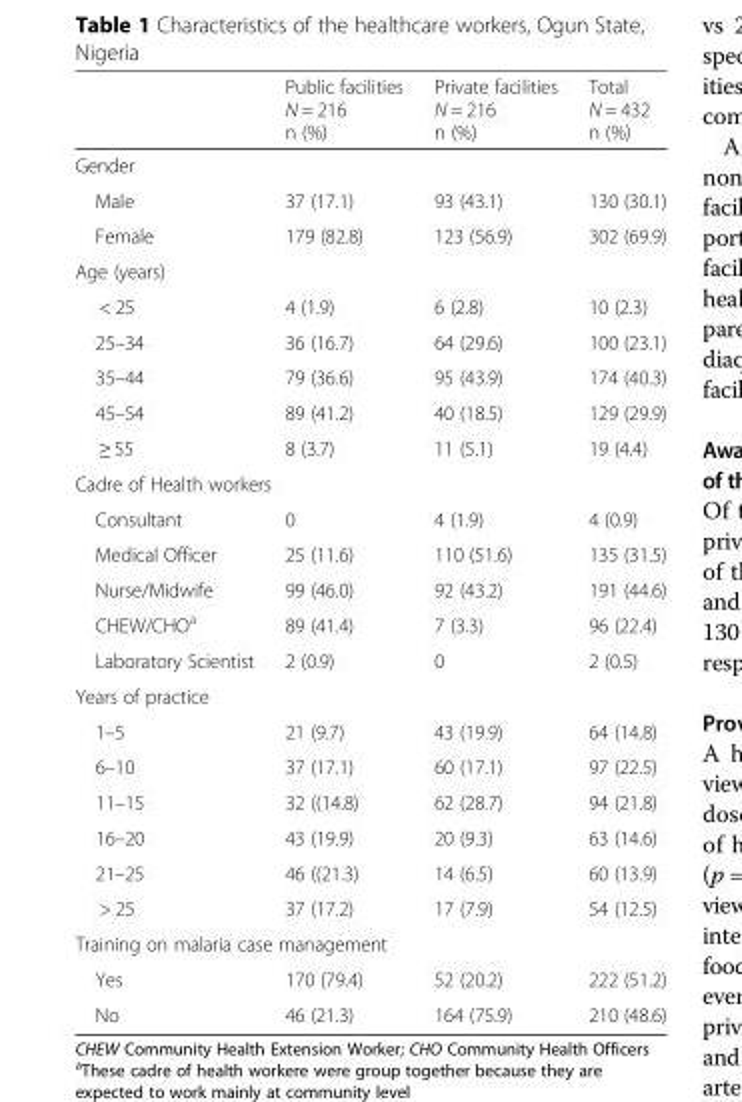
<table><thead><tr><td></td><td>Public facilities N = 216 n (%)</td><td>Private facilities N = 216 n (%)</td><td>Total N = 432 n (%)</td></tr></thead><tbody><tr><td colspan="4">Gender</td></tr><tr><td>Male</td><td>37 (17.1)</td><td>93 (43.1)</td><td>130 (30.1)</td></tr><tr><td>Female</td><td>179 (82.8)</td><td>123 (56.9)</td><td>302 (69.9)</td></tr><tr><td colspan="4">Age (years)</td></tr><tr><td>&lt; 25</td><td>4 (1.9)</td><td>6 (2.8)</td><td>10 (2.3)</td></tr><tr><td>25–34</td><td>36 (16.7)</td><td>64 (29.6)</td><td>100 (23.1)</td></tr><tr><td>35–44</td><td>79 (36.6)</td><td>95 (43.9)</td><td>174 (40.3)</td></tr><tr><td>45–54</td><td>89 (41.2)</td><td>40 (18.5)</td><td>129 (29.9)</td></tr><tr><td>≥ 55</td><td>8 (3.7)</td><td>11 (5.1)</td><td>19 (4.4)</td></tr><tr><td colspan="4">Cadre of Health workers</td></tr><tr><td>Consultant</td><td>0</td><td>4 (1.9)</td><td>4 (0.9)</td></tr><tr><td>Medical Officer</td><td>25 (11.6)</td><td>110 (51.6)</td><td>135 (31.5)</td></tr><tr><td>Nurse/Midwife</td><td>99 (46.0)</td><td>92 (43.2)</td><td>191 (44.6)</td></tr><tr><td>CHEW/CHO<sup>a</sup></td><td>89 (41.4)</td><td>7 (3.3)</td><td>96 (22.4)</td></tr><tr><td>Laboratory Scientist</td><td>2 (0.9)</td><td>0</td><td>2 (0.5)</td></tr><tr><td colspan="4">Years of practice</td></tr><tr><td>1–5</td><td>21 (9.7)</td><td>43 (19.9)</td><td>64 (14.8)</td></tr><tr><td>6–10</td><td>37 (17.1)</td><td>60 (17.1)</td><td>97 (22.5)</td></tr><tr><td>11–15</td><td>32 ((14.8)</td><td>62 (28.7)</td><td>94 (21.8)</td></tr><tr><td>16–20</td><td>43 (19.9)</td><td>20 (9.3)</td><td>63 (14.6)</td></tr><tr><td>21–25</td><td>46 ((21.3)</td><td>14 (6.5)</td><td>60 (13.9)</td></tr><tr><td>&gt; 25</td><td>37 (17.2)</td><td>17 (7.9)</td><td>54 (12.5)</td></tr><tr><td colspan="4">Training on malaria case management</td></tr><tr><td>Yes</td><td>170 (79.4)</td><td>52 (20.2)</td><td>222 (51.2)</td></tr><tr><td>No</td><td>46 (21.3)</td><td>164 (75.9)</td><td>210 (48.6)</td></tr></tbody></table>